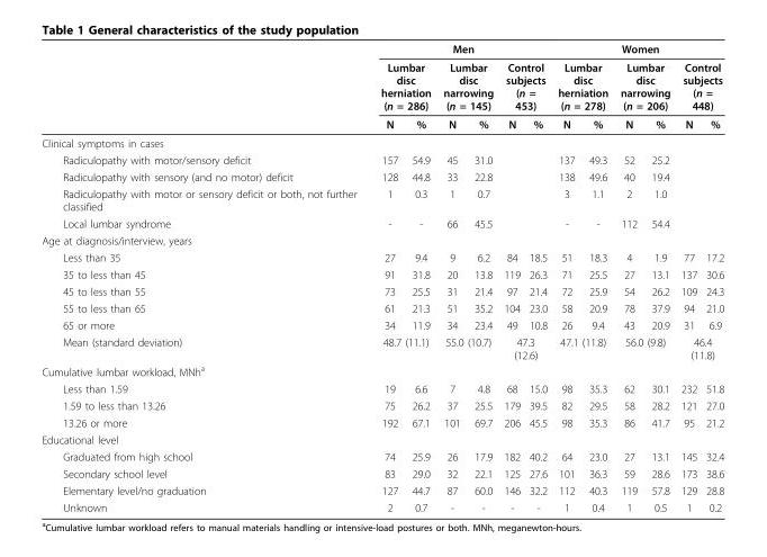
<table><thead><tr><td rowspan="3"></td><td colspan="6">Men</td><td colspan="6">Women</td></tr><tr><td colspan="2">Lumbar disc herniation (n = 286)</td><td colspan="2">Lumbar disc narrowing (n = 145)</td><td colspan="2">Control subjects (n = 453)</td><td colspan="2">Lumbar disc herniation (n = 278)</td><td colspan="2">Lumbar disc narrowing (n = 206)</td><td colspan="2">Control subjects (n = 448)</td></tr><tr><td>N</td><td>%</td><td>N</td><td>%</td><td>N</td><td>%</td><td>N</td><td>%</td><td>N</td><td>%</td><td>N</td><td>%</td></tr></thead><tbody><tr><td colspan="13">Clinical symptoms in cases</td></tr><tr><td>Radiculopathy with motor/sensory deficit</td><td>157</td><td>54.9</td><td>45</td><td>31.0</td><td></td><td></td><td>137</td><td>49.3</td><td>52</td><td>25.2</td><td></td><td></td></tr><tr><td>Radiculopathy with sensory (and no motor) deficit</td><td>128</td><td>44.8</td><td>33</td><td>22.8</td><td></td><td></td><td>138</td><td>49.6</td><td>40</td><td>19.4</td><td></td><td></td></tr><tr><td>Radiculopathy with motor or sensory deficit or both, not further classified</td><td>1</td><td>0.3</td><td>1</td><td>0.7</td><td></td><td></td><td>3</td><td>1.1</td><td>2</td><td>1.0</td><td></td><td></td></tr><tr><td>Local lumbar syndrome</td><td>-</td><td>-</td><td>66</td><td>45.5</td><td></td><td></td><td>-</td><td>-</td><td>112</td><td>54.4</td><td></td><td></td></tr><tr><td colspan="13">Age at diagnosis/interview, years</td></tr><tr><td>Less than 35</td><td>27</td><td>9.4</td><td>9</td><td>6.2</td><td>84</td><td>18.5</td><td>51</td><td>18.3</td><td>4</td><td>1.9</td><td>77</td><td>17.2</td></tr><tr><td>35 to less than 45</td><td>91</td><td>31.8</td><td>20</td><td>13.8</td><td>119</td><td>26.3</td><td>71</td><td>25.5</td><td>27</td><td>13.1</td><td>137</td><td>30.6</td></tr><tr><td>45 to less than 55</td><td>73</td><td>25.5</td><td>31</td><td>21.4</td><td>97</td><td>21.4</td><td>72</td><td>25.9</td><td>54</td><td>26.2</td><td>109</td><td>24.3</td></tr><tr><td>55 to less than 65</td><td>61</td><td>21.3</td><td>51</td><td>35.2</td><td>104</td><td>23.0</td><td>58</td><td>20.9</td><td>78</td><td>37.9</td><td>94</td><td>21.0</td></tr><tr><td>65 or more</td><td>34</td><td>11.9</td><td>34</td><td>23.4</td><td>49</td><td>10.8</td><td>26</td><td>9.4</td><td>43</td><td>20.9</td><td>31</td><td>6.9</td></tr><tr><td>Mean (standard deviation)</td><td colspan="2">48.7 (11.1)</td><td colspan="2">55.0 (10.7)</td><td colspan="2">47.3 (12.6)</td><td colspan="2">47.1 (11.8)</td><td colspan="2">56.0 (9.8)</td><td colspan="2">46.4 (11.8)</td></tr><tr><td colspan="13">Cumulative lumbar workload, MNh<sup>a</sup></td></tr><tr><td>Less than 1.59</td><td>19</td><td>6.6</td><td>7</td><td>4.8</td><td>68</td><td>15.0</td><td>98</td><td>35.3</td><td>62</td><td>30.1</td><td>232</td><td>51.8</td></tr><tr><td>1.59 to less than 13.26</td><td>75</td><td>26.2</td><td>37</td><td>25.5</td><td>179</td><td>39.5</td><td>82</td><td>29.5</td><td>58</td><td>28.2</td><td>121</td><td>27.0</td></tr><tr><td>13.26 or more</td><td>192</td><td>67.1</td><td>101</td><td>69.7</td><td>206</td><td>45.5</td><td>98</td><td>35.3</td><td>86</td><td>41.7</td><td>95</td><td>21.2</td></tr><tr><td colspan="13">Educational level</td></tr><tr><td>Graduated from high school</td><td>74</td><td>25.9</td><td>26</td><td>17.9</td><td>182</td><td>40.2</td><td>64</td><td>23.0</td><td>27</td><td>13.1</td><td>145</td><td>32.4</td></tr><tr><td>Secondary school level</td><td>83</td><td>29.0</td><td>32</td><td>22.1</td><td>125</td><td>27.6</td><td>101</td><td>36.3</td><td>59</td><td>28.6</td><td>173</td><td>38.6</td></tr><tr><td>Elementary level/no graduation</td><td>127</td><td>44.7</td><td>87</td><td>60.0</td><td>146</td><td>32.2</td><td>112</td><td>40.3</td><td>119</td><td>57.8</td><td>129</td><td>28.8</td></tr><tr><td>Unknown</td><td>2</td><td>0.7</td><td>-</td><td>-</td><td>-</td><td>-</td><td>1</td><td>0.4</td><td>1</td><td>0.5</td><td>1</td><td>0.2</td></tr></tbody></table>